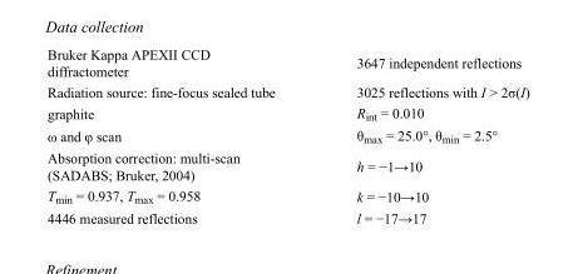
<table><tbody><tr><td>Bruker Kappa APEXII CCD diffractometer</td><td>3647 independent reflections</td></tr><tr><td>Radiation source: fine-focus sealed tube</td><td>3025 reflections with I &gt; 2σ(I)</td></tr><tr><td>graphite</td><td>R<sub>int</sub> = 0.010</td></tr><tr><td>ω and φ scan</td><td>θ<sub>max</sub> = 25.0°, θ<sub>min</sub> = 2.5°</td></tr><tr><td>Absorption correction: multi-scan (SADABS; Bruker, 2004)</td><td>h = −1→10</td></tr><tr><td>T<sub>min</sub> = 0.937, T<sub>max</sub> = 0.958</td><td>k = −10→10</td></tr><tr><td>4446 measured reflections</td><td>l = −17→17</td></tr></tbody></table>